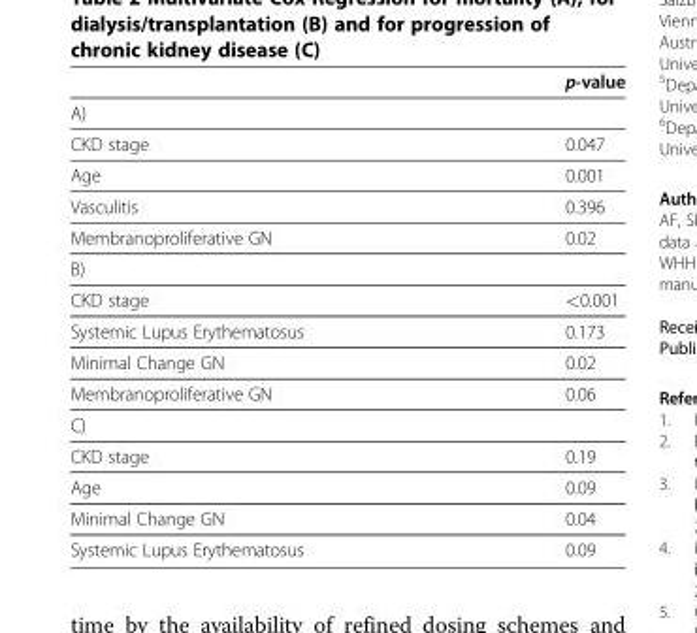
<table><thead><tr><td></td><td>p-value</td></tr></thead><tbody><tr><td colspan="2">A)</td></tr><tr><td>CKD stage</td><td>0.047</td></tr><tr><td>Age</td><td>0.001</td></tr><tr><td>Vasculitis</td><td>0.396</td></tr><tr><td>Membranoproliferative GN</td><td>0.02</td></tr><tr><td colspan="2">B)</td></tr><tr><td>CKD stage</td><td>&lt;0.001</td></tr><tr><td>Systemic Lupus Erythematosus</td><td>0.173</td></tr><tr><td>Minimal Change GN</td><td>0.02</td></tr><tr><td>Membranoproliferative GN</td><td>0.06</td></tr><tr><td colspan="2">C)</td></tr><tr><td>CKD stage</td><td>0.19</td></tr><tr><td>Age</td><td>0.09</td></tr><tr><td>Minimal Change GN</td><td>0.04</td></tr><tr><td>Systemic Lupus Erythematosus</td><td>0.09</td></tr></tbody></table>